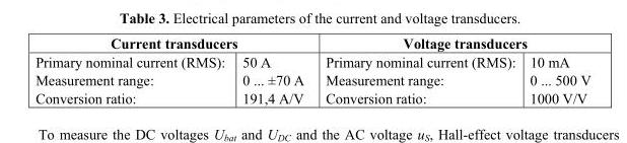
<table><thead><tr><td colspan="2">Current transducers</td><td colspan="2">Voltage transducers</td></tr><tr><td>Primary nominal current (RMS):</td><td>50 A</td><td>Primary nominal current (RMS):</td><td>10 mA</td></tr></thead><tbody><tr><td>Measurement range:</td><td>0 ... ±70 A</td><td>Measurement range:</td><td>0 ... 500 V</td></tr><tr><td>Conversion ratio:</td><td>191,4 A/V</td><td>Conversion ratio:</td><td>1000 V/V</td></tr></tbody></table>